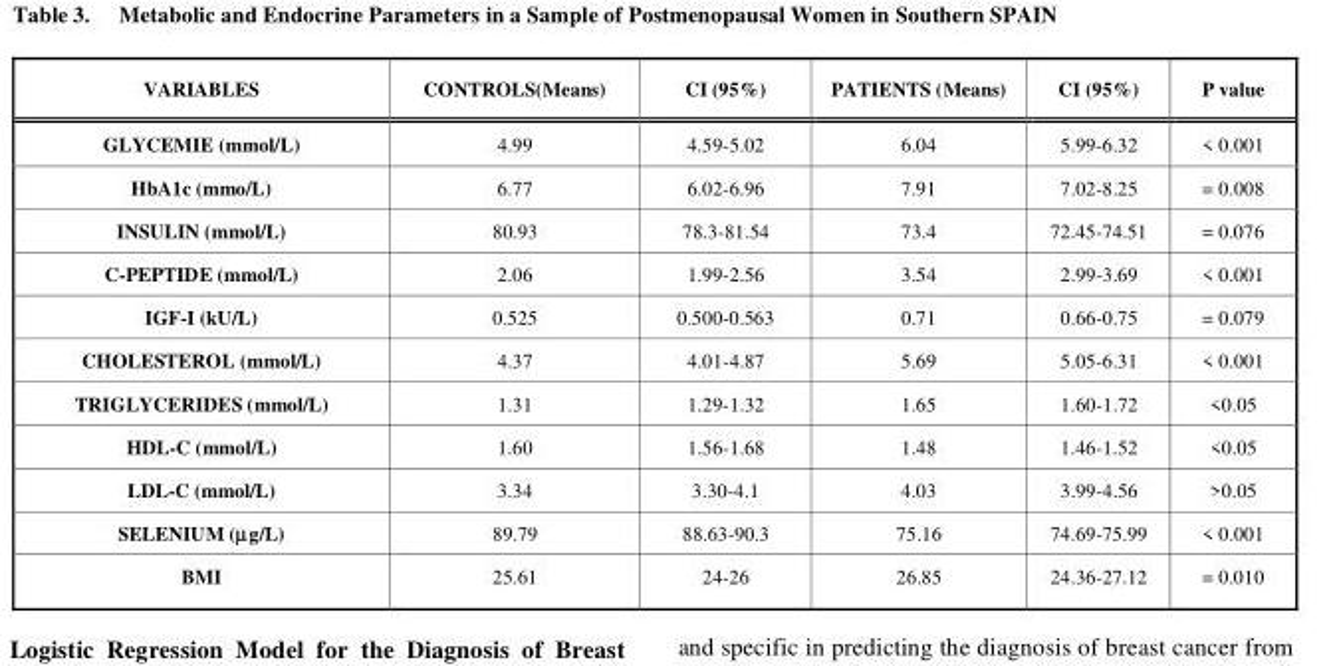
<table><thead><tr><td>VARIABLES</td><td>CONTROLS(Means)</td><td>CI (95%)</td><td>PATIENTS (Means)</td><td>CI (95%)</td><td>P value</td></tr></thead><tbody><tr><td>GLYCEMIE (mmol/L)</td><td>4.99</td><td>4.59-5.02</td><td>6.04</td><td>5.99-6.32</td><td>&lt; 0.001</td></tr><tr><td>HbA1c (mmo/L)</td><td>6.77</td><td>6.02-6.96</td><td>7.91</td><td>7.02-8.25</td><td>= 0.008</td></tr><tr><td>INSULIN (mmol/L)</td><td>80.93</td><td>78.3-81.54</td><td>73.4</td><td>72.45-74.51</td><td>= 0.076</td></tr><tr><td>C-PEPTIDE (mmol/L)</td><td>2.06</td><td>1.99-2.56</td><td>3.54</td><td>2.99-3.69</td><td>&lt; 0.001</td></tr><tr><td>IGF-I (kU/L)</td><td>0.525</td><td>0.500-0.563</td><td>0.71</td><td>0.66-0.75</td><td>= 0.079</td></tr><tr><td>CHOLESTEROL (mmol/L)</td><td>4.37</td><td>4.01-4.87</td><td>5.69</td><td>5.05-6.31</td><td>&lt; 0.001</td></tr><tr><td>TRIGLYCERIDES (mmol/L)</td><td>1.31</td><td>1.29-1.32</td><td>1.65</td><td>1.60-1.72</td><td>&lt;0.05</td></tr><tr><td>HDL-C (mmol/L)</td><td>1.60</td><td>1.56-1.68</td><td>1.48</td><td>1.46-1.52</td><td>&lt;0.05</td></tr><tr><td>LDL-C (mmol/L)</td><td>3.34</td><td>3.30-4.1</td><td>4.03</td><td>3.99-4.56</td><td>&gt;0.05</td></tr><tr><td>SELENIUM (μg/L)</td><td>89.79</td><td>88.63-90.3</td><td>75.16</td><td>74.69-75.99</td><td>&lt; 0.001</td></tr><tr><td>BMI</td><td>25.61</td><td>24-26</td><td>26.85</td><td>24.36-27.12</td><td>= 0.010</td></tr></tbody></table>